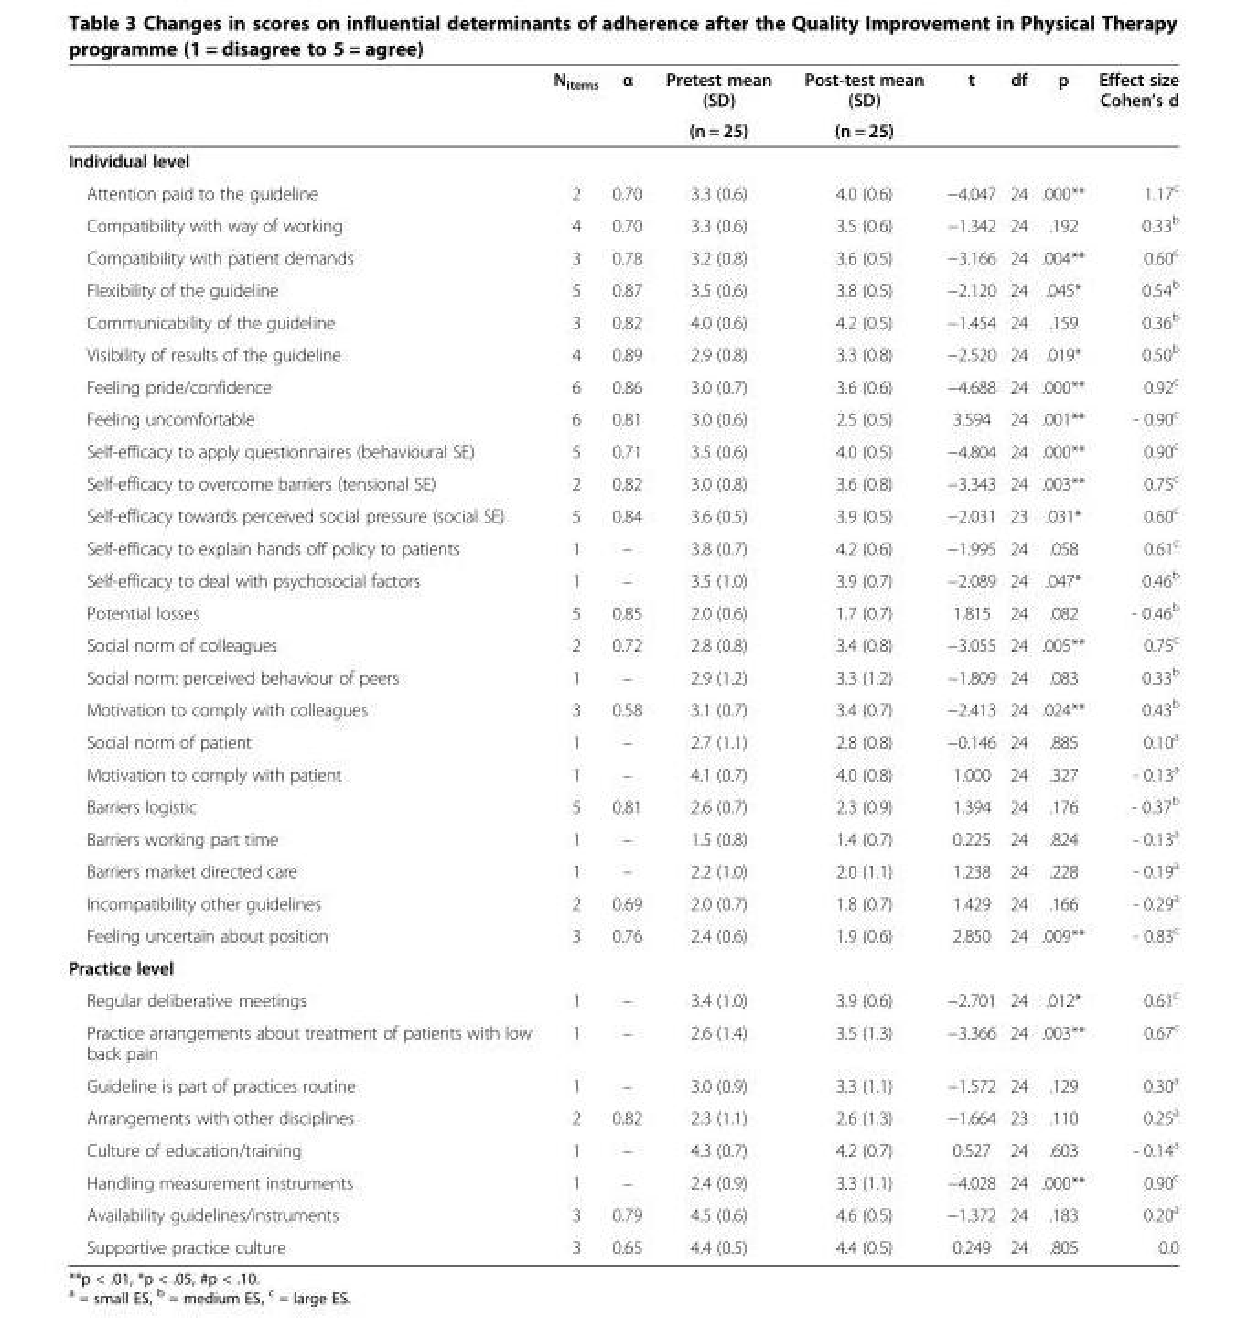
<table><thead><tr><td rowspan="2"></td><td rowspan="2">N<sub>items</sub></td><td rowspan="2">α</td><td rowspan="2">Pretest mean (SD) (n = 25)</td><td rowspan="2">Post-test mean (SD) (n = 25)</td><td rowspan="2">t</td><td rowspan="2">df</td><td rowspan="2">p</td><td rowspan="2">Effect size Cohen’s d</td></tr><tr></tr></thead><tbody><tr><td colspan="9">Individual level</td></tr><tr><td>Attention paid to the guideline</td><td>2</td><td>0.70</td><td>3.3 (0.6)</td><td>4.0 (0.6)</td><td>−4.047</td><td>24</td><td>.000**</td><td>1.17<sup>c</sup></td></tr><tr><td>Compatibility with way of working</td><td>4</td><td>0.70</td><td>3.3 (0.6)</td><td>3.5 (0.6)</td><td>−1.342</td><td>24</td><td>.192</td><td>0.33<sup>b</sup></td></tr><tr><td>Compatibility with patient demands</td><td>3</td><td>0.78</td><td>3.2 (0.8)</td><td>3.6 (0.5)</td><td>−3.166</td><td>24</td><td>.004**</td><td>0.60<sup>c</sup></td></tr><tr><td>Flexibility of the guideline</td><td>5</td><td>0.87</td><td>3.5 (0.6)</td><td>3.8 (0.5)</td><td>−2.120</td><td>24</td><td>.045*</td><td>0.54<sup>b</sup></td></tr><tr><td>Communicability of the guideline</td><td>3</td><td>0.82</td><td>4.0 (0.6)</td><td>4.2 (0.5)</td><td>−1.454</td><td>24</td><td>.159</td><td>0.36<sup>b</sup></td></tr><tr><td>Visibility of results of the guideline</td><td>4</td><td>0.89</td><td>2.9 (0.8)</td><td>3.3 (0.8)</td><td>−2.520</td><td>24</td><td>.019*</td><td>0.50<sup>b</sup></td></tr><tr><td>Feeling pride/confidence</td><td>6</td><td>0.86</td><td>3.0 (0.7)</td><td>3.6 (0.6)</td><td>−4.688</td><td>24</td><td>.000**</td><td>0.92<sup>c</sup></td></tr><tr><td>Feeling uncomfortable</td><td>6</td><td>0.81</td><td>3.0 (0.6)</td><td>2.5 (0.5)</td><td>3.594</td><td>24</td><td>.001**</td><td>- 0.90<sup>c</sup></td></tr><tr><td>Self-efficacy to apply questionnaires (behavioural SE)</td><td>5</td><td>0.71</td><td>3.5 (0.6)</td><td>4.0 (0.5)</td><td>−4.804</td><td>24</td><td>.000**</td><td>0.90<sup>c</sup></td></tr><tr><td>Self-efficacy to overcome barriers (tensional SE)</td><td>2</td><td>0.82</td><td>3.0 (0.8)</td><td>3.6 (0.8)</td><td>−3.343</td><td>24</td><td>.003**</td><td>0.75<sup>c</sup></td></tr><tr><td>Self-efficacy towards perceived social pressure (social SE)</td><td>5</td><td>0.84</td><td>3.6 (0.5)</td><td>3.9 (0.5)</td><td>−2.031</td><td>23</td><td>.031*</td><td>0.60<sup>c</sup></td></tr><tr><td>Self-efficacy to explain hands off policy to patients</td><td>1</td><td>–</td><td>3.8 (0.7)</td><td>4.2 (0.6)</td><td>−1.995</td><td>24</td><td>.058</td><td>0.61<sup>c</sup></td></tr><tr><td>Self-efficacy to deal with psychosocial factors</td><td>1</td><td>–</td><td>3.5 (1.0)</td><td>3.9 (0.7)</td><td>−2.089</td><td>24</td><td>.047*</td><td>0.46<sup>b</sup></td></tr><tr><td>Potential losses</td><td>5</td><td>0.85</td><td>2.0 (0.6)</td><td>1.7 (0.7)</td><td>1.815</td><td>24</td><td>.082</td><td>- 0.46<sup>b</sup></td></tr><tr><td>Social norm of colleagues</td><td>2</td><td>0.72</td><td>2.8 (0.8)</td><td>3.4 (0.8)</td><td>−3.055</td><td>24</td><td>.005**</td><td>0.75<sup>c</sup></td></tr><tr><td>Social norm: perceived behaviour of peers</td><td>1</td><td>–</td><td>2.9 (1.2)</td><td>3.3 (1.2)</td><td>−1.809</td><td>24</td><td>.083</td><td>0.33<sup>b</sup></td></tr><tr><td>Motivation to comply with colleagues</td><td>3</td><td>0.58</td><td>3.1 (0.7)</td><td>3.4 (0.7)</td><td>−2.413</td><td>24</td><td>.024**</td><td>0.43<sup>b</sup></td></tr><tr><td>Social norm of patient</td><td>1</td><td>–</td><td>2.7 (1.1)</td><td>2.8 (0.8)</td><td>−0.146</td><td>24</td><td>.885</td><td>0.10<sup>a</sup></td></tr><tr><td>Motivation to comply with patient</td><td>1</td><td>–</td><td>4.1 (0.7)</td><td>4.0 (0.8)</td><td>1.000</td><td>24</td><td>.327</td><td>- 0.13<sup>a</sup></td></tr><tr><td>Barriers logistic</td><td>5</td><td>0.81</td><td>2.6 (0.7)</td><td>2.3 (0.9)</td><td>1.394</td><td>24</td><td>.176</td><td>- 0.37<sup>b</sup></td></tr><tr><td>Barriers working part time</td><td>1</td><td>–</td><td>1.5 (0.8)</td><td>1.4 (0.7)</td><td>0.225</td><td>24</td><td>.824</td><td>- 0.13<sup>a</sup></td></tr><tr><td>Barriers market directed care</td><td>1</td><td>–</td><td>2.2 (1.0)</td><td>2.0 (1.1)</td><td>1.238</td><td>24</td><td>.228</td><td>- 0.19<sup>a</sup></td></tr><tr><td>Incompatibility other guidelines</td><td>2</td><td>0.69</td><td>2.0 (0.7)</td><td>1.8 (0.7)</td><td>1.429</td><td>24</td><td>.166</td><td>- 0.29<sup>a</sup></td></tr><tr><td>Feeling uncertain about position</td><td>3</td><td>0.76</td><td>2.4 (0.6)</td><td>1.9 (0.6)</td><td>2.850</td><td>24</td><td>.009**</td><td>- 0.83<sup>c</sup></td></tr><tr><td colspan="9">Practice level</td></tr><tr><td>Regular deliberative meetings</td><td>1</td><td>–</td><td>3.4 (1.0)</td><td>3.9 (0.6)</td><td>−2.701</td><td>24</td><td>.012*</td><td>0.61<sup>c</sup></td></tr><tr><td>Practice arrangements about treatment of patients with low back pain</td><td>1</td><td>–</td><td>2.6 (1.4)</td><td>3.5 (1.3)</td><td>−3.366</td><td>24</td><td>.003**</td><td>0.67<sup>c</sup></td></tr><tr><td>Guideline is part of practices routine</td><td>1</td><td>–</td><td>3.0 (0.9)</td><td>3.3 (1.1)</td><td>−1.572</td><td>24</td><td>.129</td><td>0.30<sup>a</sup></td></tr><tr><td>Arrangements with other disciplines</td><td>2</td><td>0.82</td><td>2.3 (1.1)</td><td>2.6 (1.3)</td><td>−1.664</td><td>23</td><td>.110</td><td>0.25<sup>a</sup></td></tr><tr><td>Culture of education/training</td><td>1</td><td>–</td><td>4.3 (0.7)</td><td>4.2 (0.7)</td><td>0.527</td><td>24</td><td>.603</td><td>- 0.14<sup>a</sup></td></tr><tr><td>Handling measurement instruments</td><td>1</td><td>–</td><td>2.4 (0.9)</td><td>3.3 (1.1)</td><td>−4.028</td><td>24</td><td>.000**</td><td>0.90<sup>c</sup></td></tr><tr><td>Availability guidelines/instruments</td><td>3</td><td>0.79</td><td>4.5 (0.6)</td><td>4.6 (0.5)</td><td>−1.372</td><td>24</td><td>.183</td><td>0.20<sup>a</sup></td></tr><tr><td>Supportive practice culture</td><td>3</td><td>0.65</td><td>4.4 (0.5)</td><td>4.4 (0.5)</td><td>0.249</td><td>24</td><td>.805</td><td>0.0</td></tr></tbody></table>